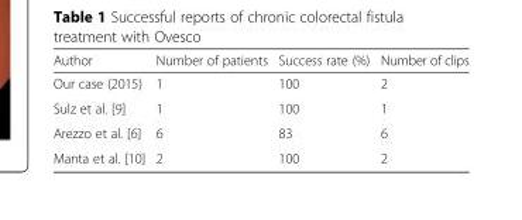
<table><thead><tr><td>Author</td><td>Number of patients</td><td>Success rate (%)</td><td>Number of clips</td></tr></thead><tbody><tr><td>Our case (2015)</td><td>1</td><td>100</td><td>2</td></tr><tr><td>Sulz et al. [9]</td><td>1</td><td>100</td><td>1</td></tr><tr><td>Arezzo et al. [6]</td><td>6</td><td>83</td><td>6</td></tr><tr><td>Manta et al. [10]</td><td>2</td><td>100</td><td>2</td></tr></tbody></table>